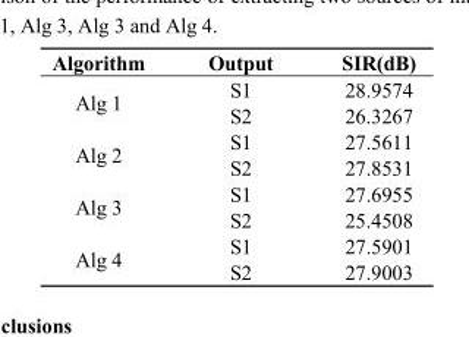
<table><thead><tr><td>Algorithm</td><td>Output</td><td>SIR(dB)</td></tr></thead><tbody><tr><td rowspan="2">Alg 1</td><td>S1</td><td>28.9574</td></tr><tr><td>S2</td><td>26.3267</td></tr><tr><td rowspan="2">Alg 2</td><td>S1</td><td>27.5611</td></tr><tr><td>S2</td><td>27.8531</td></tr><tr><td rowspan="2">Alg 3</td><td>S1</td><td>27.6955</td></tr><tr><td>S2</td><td>25.4508</td></tr><tr><td rowspan="2">Alg 4</td><td>S1</td><td>27.5901</td></tr><tr><td>S2</td><td>27.9003</td></tr></tbody></table>